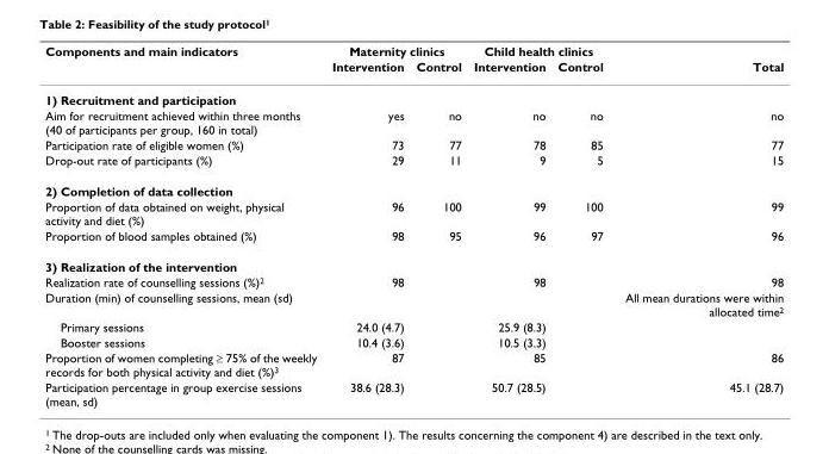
<table><thead><tr><td rowspan="2">Components and main indicators</td><td colspan="2">Maternity clinics</td><td colspan="2">Child health clinics</td><td rowspan="2">Total</td></tr><tr><td>Intervention</td><td>Control</td><td>Intervention</td><td>Control</td></tr></thead><tbody><tr><td colspan="6">1) Recruitment and participation</td></tr><tr><td>Aim for recruitment achieved within three months (40 of participants per group, 160 in total)</td><td>yes</td><td>no</td><td>no</td><td>no</td><td>no</td></tr><tr><td>Participation rate of eligible women (%)</td><td>73</td><td>77</td><td>78</td><td>85</td><td>77</td></tr><tr><td>Drop-out rate of participants (%)</td><td>29</td><td>11</td><td>9</td><td>5</td><td>15</td></tr><tr><td colspan="6">2) Completion of data collection</td></tr><tr><td>Proportion of data obtained on weight, physical activity and diet (%)</td><td>96</td><td>100</td><td>99</td><td>100</td><td>99</td></tr><tr><td>Proportion of blood samples obtained (%)</td><td>98</td><td>95</td><td>96</td><td>97</td><td>96</td></tr><tr><td colspan="6">3) Realization of the intervention</td></tr><tr><td>Realization rate of counselling sessions (%)<sup>2</sup></td><td>98</td><td></td><td>98</td><td></td><td>98</td></tr><tr><td>Duration (min) of counselling sessions, mean (sd)</td><td></td><td></td><td></td><td></td><td>All mean durations were within allocated time<sup>2</sup></td></tr><tr><td>Primary sessions</td><td>24.0 (4.7)</td><td></td><td>25.9 (8.3)</td><td></td><td></td></tr><tr><td>Booster sessions</td><td>10.4 (3.6)</td><td></td><td>10.5 (3.3)</td><td></td><td></td></tr><tr><td>Proportion of women completing ≥ 75% of the weekly records for both physical activity and diet (%)<sup>3</sup></td><td>87</td><td></td><td>85</td><td></td><td>86</td></tr><tr><td>Participation percentage in group exercise sessions (mean, sd)</td><td>38.6 (28.3)</td><td></td><td>50.7 (28.5)</td><td></td><td>45.1 (28.7)</td></tr></tbody></table>